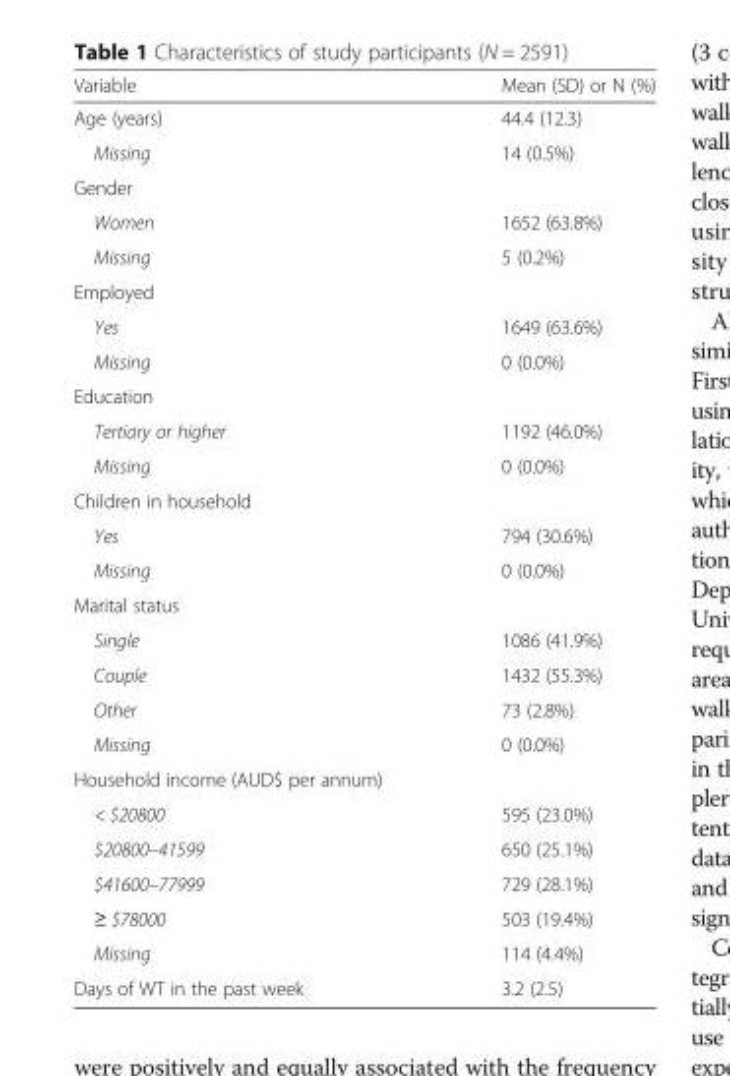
<table><thead><tr><td>Variable</td><td>Mean (SD) or N (%)</td></tr></thead><tbody><tr><td>Age (years)</td><td>44.4 (12.3)</td></tr><tr><td>Missing</td><td>14 (0.5%)</td></tr><tr><td colspan="2">Gender</td></tr><tr><td>Women</td><td>1652 (63.8%)</td></tr><tr><td>Missing</td><td>5 (0.2%)</td></tr><tr><td colspan="2">Employed</td></tr><tr><td>Yes</td><td>1649 (63.6%)</td></tr><tr><td>Missing</td><td>0 (0.0%)</td></tr><tr><td colspan="2">Education</td></tr><tr><td>Tertiary or higher</td><td>1192 (46.0%)</td></tr><tr><td>Missing</td><td>0 (0.0%)</td></tr><tr><td colspan="2">Children in household</td></tr><tr><td>Yes</td><td>794 (30.6%)</td></tr><tr><td>Missing</td><td>0 (0.0%)</td></tr><tr><td colspan="2">Marital status</td></tr><tr><td>Single</td><td>1086 (41.9%)</td></tr><tr><td>Couple</td><td>1432 (55.3%)</td></tr><tr><td>Other</td><td>73 (2.8%)</td></tr><tr><td>Missing</td><td>0 (0.0%)</td></tr><tr><td colspan="2">Household income (AUD$ per annum)</td></tr><tr><td>&lt; $20800</td><td>595 (23.0%)</td></tr><tr><td>$20800–41599</td><td>650 (25.1%)</td></tr><tr><td>$41600–77999</td><td>729 (28.1%)</td></tr><tr><td>≥ $78000</td><td>503 (19.4%)</td></tr><tr><td>Missing</td><td>114 (4.4%)</td></tr><tr><td>Days of WT in the past week</td><td>3.2 (2.5)</td></tr></tbody></table>